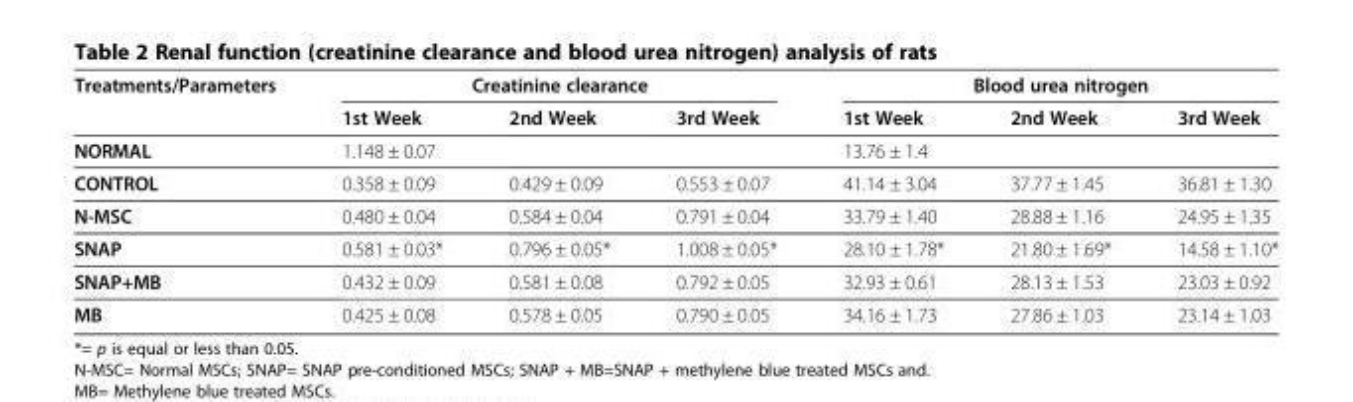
<table><thead><tr><td rowspan="2">Treatments/Parameters</td><td colspan="3">Creatinine clearance</td><td colspan="3">Blood urea nitrogen</td></tr><tr><td>1st Week</td><td>2nd Week</td><td>3rd Week</td><td>1st Week</td><td>2nd Week</td><td>3rd Week</td></tr></thead><tbody><tr><td>NORMAL</td><td>1.148 ± 0.07</td><td></td><td></td><td>13.76 ± 1.4</td><td></td><td></td></tr><tr><td>CONTROL</td><td>0.358 ± 0.09</td><td>0.429 ± 0.09</td><td>0.553 ± 0.07</td><td>41.14 ± 3.04</td><td>37.77 ± 1.45</td><td>36.81 ± 1.30</td></tr><tr><td>N-MSC</td><td>0.480 ± 0.04</td><td>0.584 ± 0.04</td><td>0.791 ± 0.04</td><td>33.79 ± 1.40</td><td>28.88 ± 1.16</td><td>24.95 ± 1.35</td></tr><tr><td>SNAP</td><td>0.581 ± 0.03*</td><td>0.796 ± 0.05*</td><td>1.008 ± 0.05*</td><td>28.10 ± 1.78*</td><td>21.80 ± 1.69*</td><td>14.58 ± 1.10*</td></tr><tr><td>SNAP+MB</td><td>0.432 ± 0.09</td><td>0.581 ± 0.08</td><td>0.792 ± 0.05</td><td>32.93 ± 0.61</td><td>28.13 ± 1.53</td><td>23.03 ± 0.92</td></tr><tr><td>MB</td><td>0.425 ± 0.08</td><td>0.578 ± 0.05</td><td>0.790 ± 0.05</td><td>34.16 ± 1.73</td><td>27.86 ± 1.03</td><td>23.14 ± 1.03</td></tr></tbody></table>